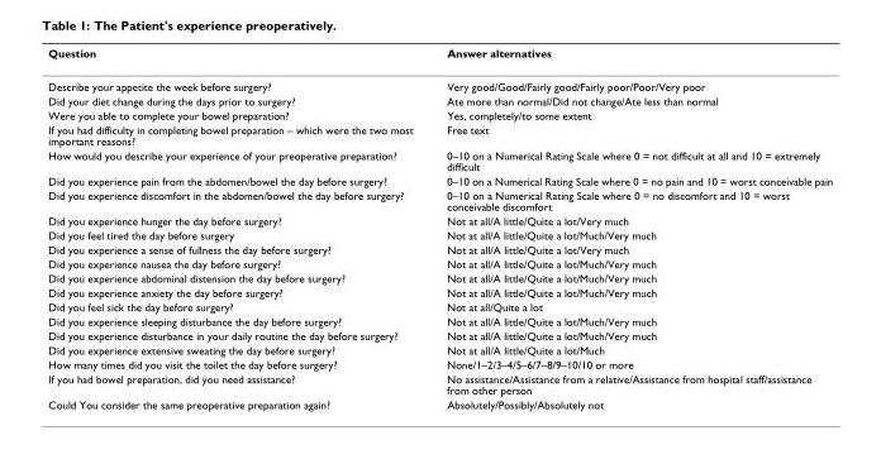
<table><thead><tr><td>Question</td><td>Answer alternatives</td></tr></thead><tbody><tr><td>Describe your appetite the week before surgery?</td><td>Very good/Good/Fairly good/Fairly poor/Poor/Very poor</td></tr><tr><td>Did your diet change during the days prior to surgery?</td><td>Ate more than normal/Did not change/Ate less than normal</td></tr><tr><td>Were you able to complete your bowel preparation?</td><td>Yes, completely/to some extent</td></tr><tr><td>If you had difficulty in completing bowel preparation – which were the two most important reasons?</td><td>Free text</td></tr><tr><td>How would you describe your experience of your preoperative preparation?</td><td>0–10 on a Numerical Rating Scale where 0 = not difficult at all and 10 = extremely difficult</td></tr><tr><td>Did you experience pain from the abdomen/bowel the day before surgery?</td><td>0–10 on a Numerical Rating Scale where 0 = no pain and 10 = worst conceivable pain</td></tr><tr><td>Did you experience discomfort in the abdomen/bowel the day before surgery?</td><td>0–10 on a Numerical Rating Scale where 0 = no discomfort and 10 = worst conceivable discomfort</td></tr><tr><td>Did you experience hunger the day before surgery?</td><td>Not at all/A little/Quite a lot/Very much</td></tr><tr><td>Did you feel tired the day before surgery</td><td>Not at all/A little/Quite a lot/Much/Very much</td></tr><tr><td>Did you experience a sense of fullness the day before surgery?</td><td>Not at all/A little/Quite a lot/Very much</td></tr><tr><td>Did you experience nausea the day before surgery?</td><td>Not at all/A little/Quite a lot/Much/Very much</td></tr><tr><td>Did you experience abdominal distension the day before surgery?</td><td>Not at all/A little/Quite a lot/Much/Very much</td></tr><tr><td>Did you experience anxiety the day before surgery?</td><td>Not at all/A little/Quite a lot/Much/Very much</td></tr><tr><td>Did you feel sick the day before surgery?</td><td>Not at all/Quite a lot</td></tr><tr><td>Did you experience sleeping disturbance the day before surgery?</td><td>Not at all/A little/Quite a lot/Much/Very much</td></tr><tr><td>Did you experience disturbance in your daily routine the day before surgery?</td><td>Not at all/A little/Quite a lot/Much/Very much</td></tr><tr><td>Did you experience extensive sweating the day before surgery?</td><td>Not at all/A little/Quite a lot/Much</td></tr><tr><td>How many times did you visit the toilet the day before surgery?</td><td>None/1–2/3–4/5–6/7–8/9–10/10 or more</td></tr><tr><td>If you had bowel preparation, did you need assistance?</td><td>No assistance/Assistance from a relative/Assistance from hospital staff/assistance from other person</td></tr><tr><td>Could You consider the same preoperative preparation again?</td><td>Absolutely/Possibly/Absolutely not</td></tr></tbody></table>